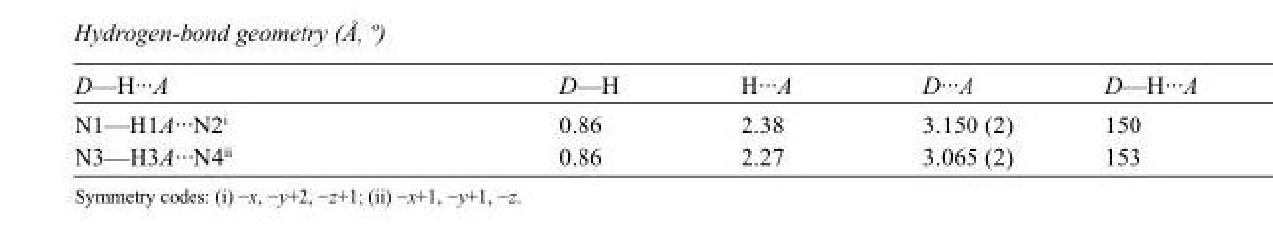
<table><tbody><tr><td>D—H···A</td><td>D—H</td><td>H···A</td><td>D···A</td><td>D—H···A</td></tr><tr><td>N1—H1A···N2<sup>i</sup></td><td>0.86</td><td>2.38</td><td>3.150 (2)</td><td>150</td></tr><tr><td>N3—H3A···N4<sup>ii</sup></td><td>0.86</td><td>2.27</td><td>3.065 (2)</td><td>153</td></tr></tbody></table>